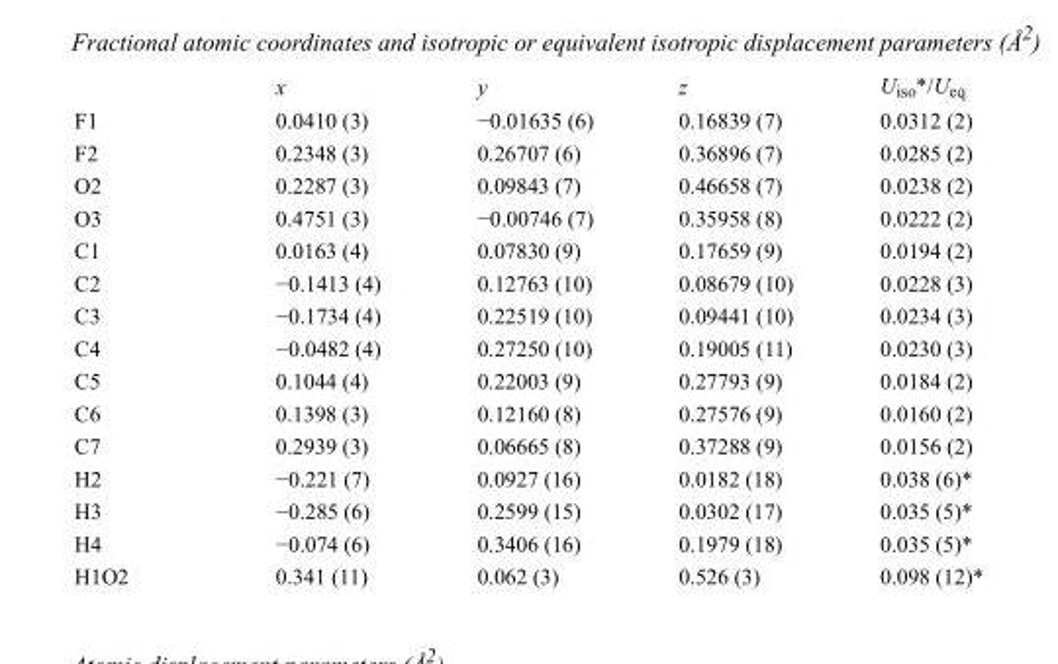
<table><thead><tr><td></td><td>x</td><td>y</td><td>z</td><td>U<sub>iso</sub>*/U<sub>eq</sub></td></tr></thead><tbody><tr><td>F1</td><td>0.0410 (3)</td><td>−0.01635 (6)</td><td>0.16839 (7)</td><td>0.0312 (2)</td></tr><tr><td>F2</td><td>0.2348 (3)</td><td>0.26707 (6)</td><td>0.36896 (7)</td><td>0.0285 (2)</td></tr><tr><td>O2</td><td>0.2287 (3)</td><td>0.09843 (7)</td><td>0.46658 (7)</td><td>0.0238 (2)</td></tr><tr><td>O3</td><td>0.4751 (3)</td><td>−0.00746 (7)</td><td>0.35958 (8)</td><td>0.0222 (2)</td></tr><tr><td>C1</td><td>0.0163 (4)</td><td>0.07830 (9)</td><td>0.17659 (9)</td><td>0.0194 (2)</td></tr><tr><td>C2</td><td>−0.1413 (4)</td><td>0.12763 (10)</td><td>0.08679 (10)</td><td>0.0228 (3)</td></tr><tr><td>C3</td><td>−0.1734 (4)</td><td>0.22519 (10)</td><td>0.09441 (10)</td><td>0.0234 (3)</td></tr><tr><td>C4</td><td>−0.0482 (4)</td><td>0.27250 (10)</td><td>0.19005 (11)</td><td>0.0230 (3)</td></tr><tr><td>C5</td><td>0.1044 (4)</td><td>0.22003 (9)</td><td>0.27793 (9)</td><td>0.0184 (2)</td></tr><tr><td>C6</td><td>0.1398 (3)</td><td>0.12160 (8)</td><td>0.27576 (9)</td><td>0.0160 (2)</td></tr><tr><td>C7</td><td>0.2939 (3)</td><td>0.06665 (8)</td><td>0.37288 (9)</td><td>0.0156 (2)</td></tr><tr><td>H2</td><td>−0.221 (7)</td><td>0.0927 (16)</td><td>0.0182 (18)</td><td>0.038 (6)*</td></tr><tr><td>H3</td><td>−0.285 (6)</td><td>0.2599 (15)</td><td>0.0302 (17)</td><td>0.035 (5)*</td></tr><tr><td>H4</td><td>−0.074 (6)</td><td>0.3406 (16)</td><td>0.1979 (18)</td><td>0.035 (5)*</td></tr><tr><td>H1O2</td><td>0.341 (11)</td><td>0.062 (3)</td><td>0.526 (3)</td><td>0.098 (12)*</td></tr></tbody></table>